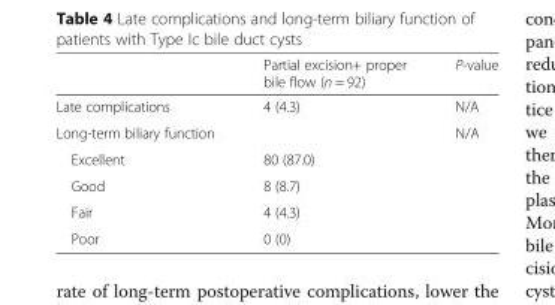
<table><thead><tr><td></td><td>Partial excision+ proper bile flow (n = 92)</td><td>P-value</td></tr></thead><tbody><tr><td>Late complications</td><td>4 (4.3)</td><td>N/A</td></tr><tr><td>Long-term biliary function</td><td></td><td>N/A</td></tr><tr><td>Excellent</td><td>80 (87.0)</td><td></td></tr><tr><td>Good</td><td>8 (8.7)</td><td></td></tr><tr><td>Fair</td><td>4 (4.3)</td><td></td></tr><tr><td>Poor</td><td>0 (0)</td><td></td></tr></tbody></table>